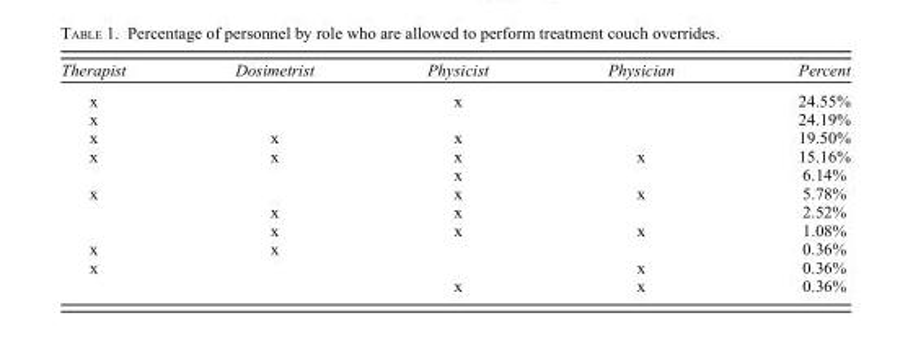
<table><thead><tr><td>Therapist</td><td>Dosimetrist</td><td>Physicist</td><td>Physician</td><td>Percent</td></tr></thead><tbody><tr><td>x</td><td></td><td>x</td><td></td><td>24.55%</td></tr><tr><td>x</td><td></td><td></td><td></td><td>24.19%</td></tr><tr><td>x</td><td>x</td><td>x</td><td></td><td>19.50%</td></tr><tr><td rowspan="2">x</td><td>x</td><td>x</td><td>x</td><td>15.16%</td></tr><tr><td></td><td>x</td><td></td><td>6.14%</td></tr><tr><td rowspan="3">x</td><td></td><td>x</td><td>x</td><td>5.78%</td></tr><tr><td>x</td><td>x</td><td></td><td>2.52%</td></tr><tr><td>x</td><td>x</td><td>x</td><td>1.08%</td></tr><tr><td>x</td><td>x</td><td></td><td></td><td>0.36%</td></tr><tr><td rowspan="2">x</td><td></td><td></td><td>x</td><td>0.36%</td></tr><tr><td></td><td>x</td><td>x</td><td>0.36%</td></tr></tbody></table>